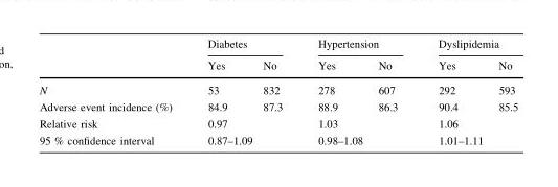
<table><thead><tr><td rowspan="2"></td><td colspan="2">Diabetes</td><td colspan="2">Hypertension</td><td colspan="2">Dyslipidemia</td></tr><tr><td>Yes</td><td>No</td><td>Yes</td><td>No</td><td>Yes</td><td>No</td></tr></thead><tbody><tr><td>N</td><td>53</td><td>832</td><td>278</td><td>607</td><td>292</td><td>593</td></tr><tr><td>Adverse event incidence (%)</td><td>84.9</td><td>87.3</td><td>88.9</td><td>86.3</td><td>90.4</td><td>85.5</td></tr><tr><td>Relative risk</td><td colspan="2">0.97</td><td colspan="2">1.03</td><td colspan="2">1.06</td></tr><tr><td>95 % confidence interval</td><td colspan="2">0.87–1.09</td><td colspan="2">0.98–1.08</td><td colspan="2">1.01–1.11</td></tr></tbody></table>